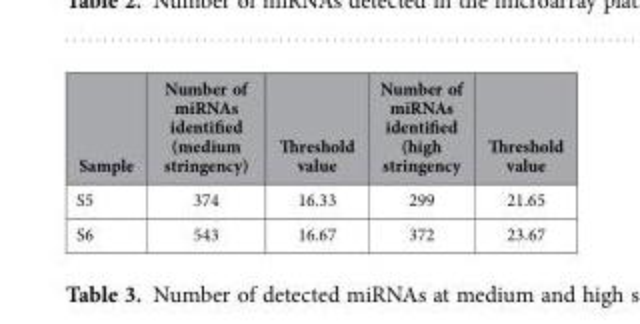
<table><thead><tr><td>Sample</td><td>Number of miRNAs identified (medium stringency)</td><td>Threshold value</td><td>Number of miRNAs identified (high stringency</td><td>Threshold value</td></tr></thead><tbody><tr><td>S5</td><td>374</td><td>16.33</td><td>299</td><td>21.65</td></tr><tr><td>S6</td><td>543</td><td>16.67</td><td>372</td><td>23.67</td></tr></tbody></table>